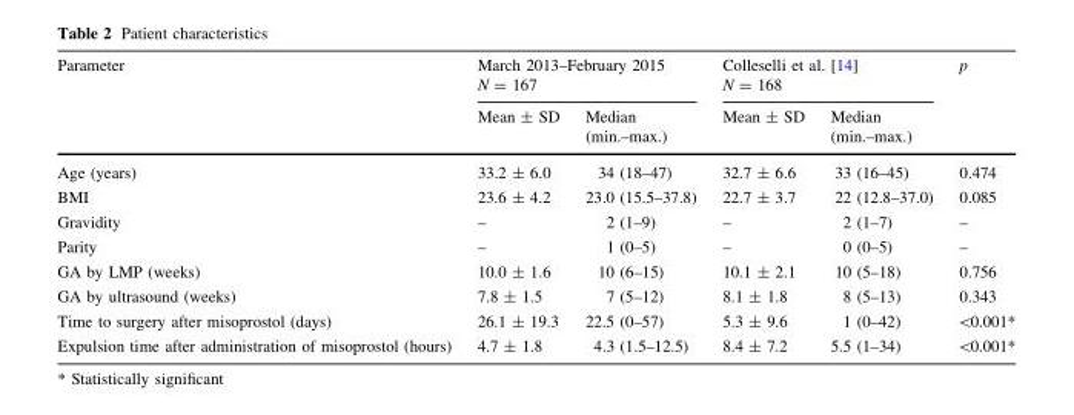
<table><thead><tr><td rowspan="2">Parameter</td><td colspan="2">March 2013–February 2015 N = 167</td><td colspan="2">Colleselli et al. [14] N = 168</td><td rowspan="2">p</td></tr><tr><td>Mean ± SD</td><td>Median (min.–max.)</td><td>Mean ± SD</td><td>Median (min.–max.)</td></tr></thead><tbody><tr><td>Age (years)</td><td>33.2 ± 6.0</td><td>34 (18–47)</td><td>32.7 ± 6.6</td><td>33 (16–45)</td><td>0.474</td></tr><tr><td>BMI</td><td>23.6 ± 4.2</td><td>23.0 (15.5–37.8)</td><td>22.7 ± 3.7</td><td>22 (12.8–37.0)</td><td>0.085</td></tr><tr><td>Gravidity</td><td>–</td><td>2 (1–9)</td><td>–</td><td>2 (1–7)</td><td>–</td></tr><tr><td>Parity</td><td>–</td><td>1 (0–5)</td><td>–</td><td>0 (0–5)</td><td>–</td></tr><tr><td>GA by LMP (weeks)</td><td>10.0 ± 1.6</td><td>10 (6–15)</td><td>10.1 ± 2.1</td><td>10 (5–18)</td><td>0.756</td></tr><tr><td>GA by ultrasound (weeks)</td><td>7.8 ± 1.5</td><td>7 (5–12)</td><td>8.1 ± 1.8</td><td>8 (5–13)</td><td>0.343</td></tr><tr><td>Time to surgery after misoprostol (days)</td><td>26.1 ± 19.3</td><td>22.5 (0–57)</td><td>5.3 ± 9.6</td><td>1 (0–42)</td><td>&lt;0.001*</td></tr><tr><td>Expulsion time after administration of misoprostol (hours)</td><td>4.7 ± 1.8</td><td>4.3 (1.5–12.5)</td><td>8.4 ± 7.2</td><td>5.5 (1–34)</td><td>&lt;0.001*</td></tr></tbody></table>